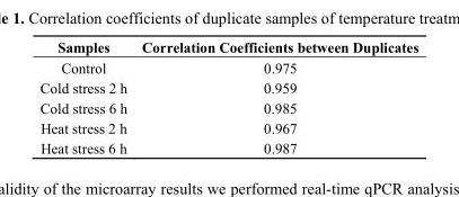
<table><thead><tr><td>Samples</td><td>Correlation Coefficients between Duplicates</td></tr></thead><tbody><tr><td>Control</td><td>0.975</td></tr><tr><td>Cold stress 2 h</td><td>0.959</td></tr><tr><td>Cold stress 6 h</td><td>0.985</td></tr><tr><td>Heat stress 2 h</td><td>0.967</td></tr><tr><td>Heat stress 6 h</td><td>0.987</td></tr></tbody></table>